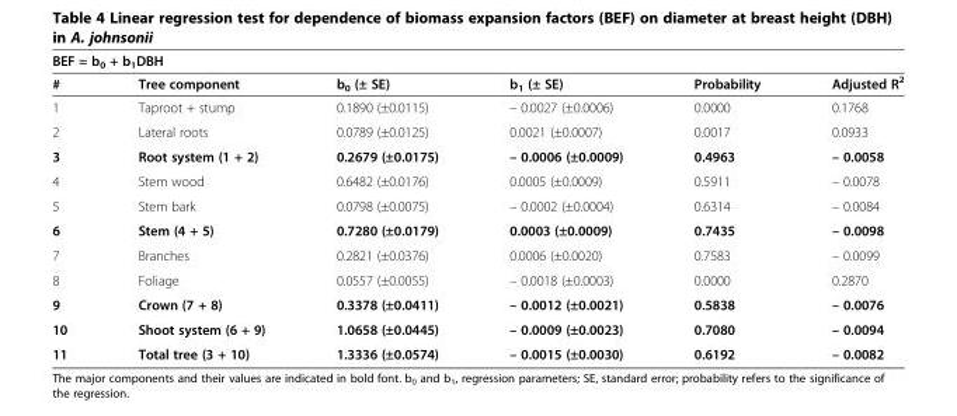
<table><thead><tr><td colspan="6">BEF = b<sub>0</sub> + b<sub>1</sub>DBH</td></tr><tr><td>#</td><td>Tree component</td><td>b<sub>0</sub> (± SE)</td><td>b<sub>1</sub> (± SE)</td><td>Probability</td><td>Adjusted R<sup>2</sup></td></tr></thead><tbody><tr><td>1</td><td>Taproot + stump</td><td>0.1890 (±0.0115)</td><td>– 0.0027 (±0.0006)</td><td>0.0000</td><td>0.1768</td></tr><tr><td>2</td><td>Lateral roots</td><td>0.0789 (±0.0125)</td><td>0.0021 (±0.0007)</td><td>0.0017</td><td>0.0933</td></tr><tr><td>3</td><td>Root system (1 + 2)</td><td>0.2679 (±0.0175)</td><td>– 0.0006 (±0.0009)</td><td>0.4963</td><td>– 0.0058</td></tr><tr><td>4</td><td>Stem wood</td><td>0.6482 (±0.0176)</td><td>0.0005 (±0.0009)</td><td>0.5911</td><td>– 0.0078</td></tr><tr><td>5</td><td>Stem bark</td><td>0.0798 (±0.0075)</td><td>– 0.0002 (±0.0004)</td><td>0.6314</td><td>– 0.0084</td></tr><tr><td>6</td><td>Stem (4 + 5)</td><td>0.7280 (±0.0179)</td><td>0.0003 (±0.0009)</td><td>0.7435</td><td>– 0.0098</td></tr><tr><td>7</td><td>Branches</td><td>0.2821 (±0.0376)</td><td>0.0006 (±0.0020)</td><td>0.7583</td><td>– 0.0099</td></tr><tr><td>8</td><td>Foliage</td><td>0.0557 (±0.0055)</td><td>– 0.0018 (±0.0003)</td><td>0.0000</td><td>0.2870</td></tr><tr><td>9</td><td>Crown (7 + 8)</td><td>0.3378 (±0.0411)</td><td>– 0.0012 (±0.0021)</td><td>0.5838</td><td>– 0.0076</td></tr><tr><td>10</td><td>Shoot system (6 + 9)</td><td>1.0658 (±0.0445)</td><td>– 0.0009 (±0.0023)</td><td>0.7080</td><td>– 0.0094</td></tr><tr><td>11</td><td>Total tree (3 + 10)</td><td>1.3336 (±0.0574)</td><td>– 0.0015 (±0.0030)</td><td>0.6192</td><td>– 0.0082</td></tr></tbody></table>